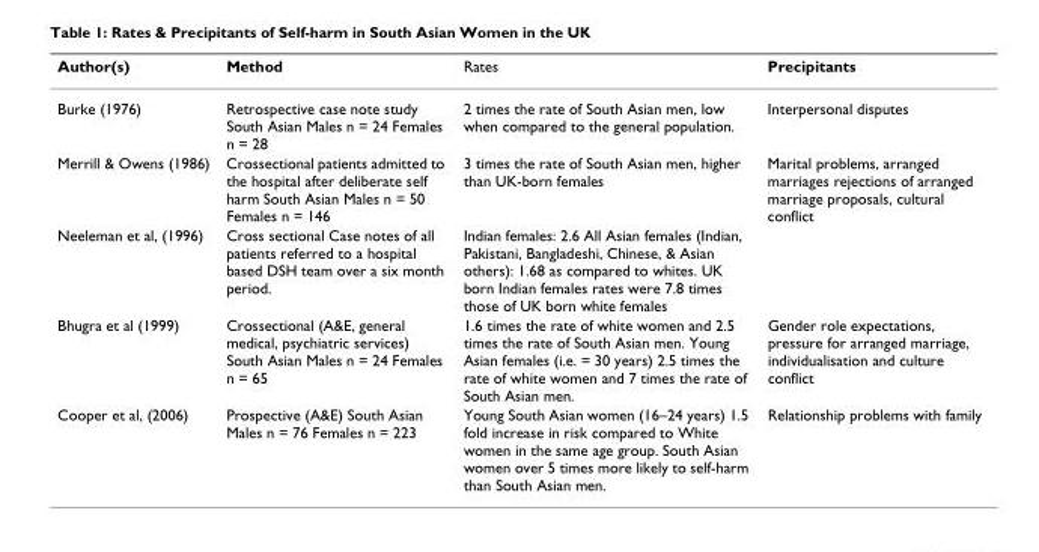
<table><thead><tr><td>Author(s)</td><td>Method</td><td>Rates</td><td>Precipitants</td></tr></thead><tbody><tr><td>Burke (1976)</td><td>Retrospective case note study South Asian Males n = 24 Females n = 28</td><td>2 times the rate of South Asian men, low when compared to the general population.</td><td>Interpersonal disputes</td></tr><tr><td>Merrill &amp; Owens (1986)</td><td>Crossectional patients admitted to the hospital after deliberate self harm South Asian Males n = 50 Females n = 146</td><td>3 times the rate of South Asian men, higher than UK-born females</td><td>Marital problems, arranged marriages rejections of arranged marriage proposals, cultural conflict</td></tr><tr><td>Neeleman et al, (1996)</td><td>Cross sectional Case notes of all patients referred to a hospital based DSH team over a six month period.</td><td>Indian females: 2.6 All Asian females (Indian, Pakistani, Bangladeshi, Chinese, &amp; Asian others): 1.68 as compared to whites. UK born Indian females rates were 7.8 times those of UK born white females</td><td></td></tr><tr><td>Bhugra et al (1999)</td><td>Crossectional (A&amp;E, general medical, psychiatric services) South Asian Males n = 24 Females n = 65</td><td>1.6 times the rate of white women and 2.5 times the rate of South Asian men. Young Asian females (i.e. = 30 years) 2.5 times the rate of white women and 7 times the rate of South Asian men.</td><td>Gender role expectations, pressure for arranged marriage, individualisation and culture conflict</td></tr><tr><td>Cooper et al, (2006)</td><td>Prospective (A&amp;E) South Asian Males n = 76 Females n = 223</td><td>Young South Asian women (16–24 years) 1.5 fold increase in risk compared to White women in the same age group. South Asian women over 5 times more likely to self-harm than South Asian men.</td><td>Relationship problems with family</td></tr></tbody></table>